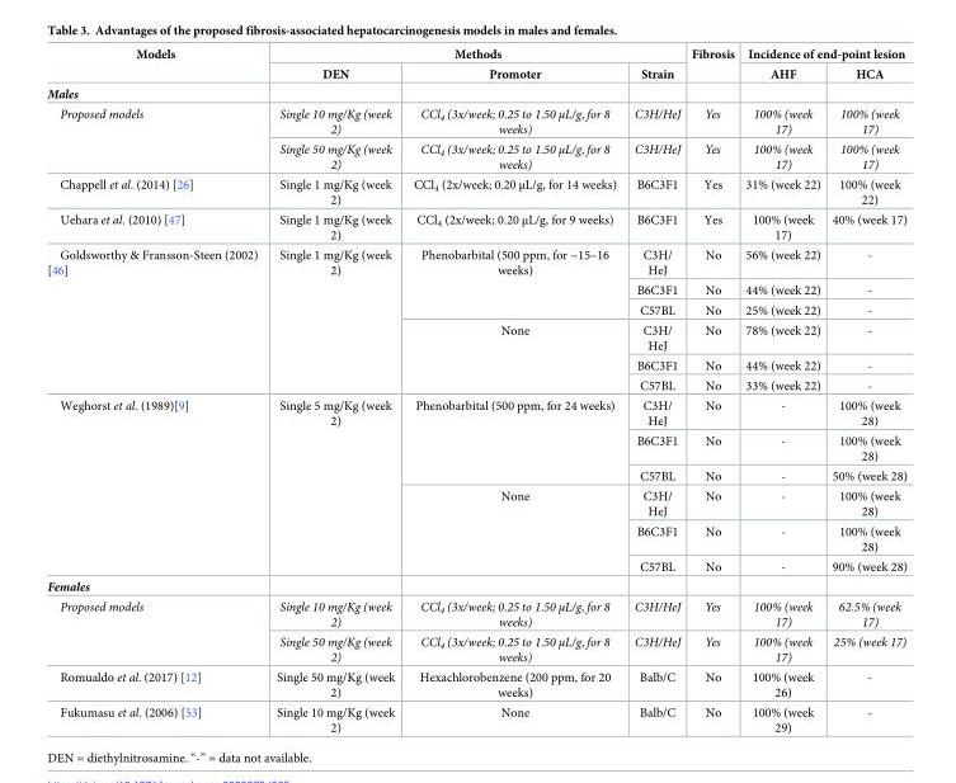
<table><thead><tr><td rowspan="2">Models</td><td colspan="3">Methods</td><td rowspan="2">Fibrosis</td><td colspan="2">Incidence of end-point lesion</td></tr><tr><td>DEN</td><td>Promoter</td><td>Strain</td><td>AHF</td><td>HCA</td></tr></thead><tbody><tr><td colspan="7">Males</td></tr><tr><td rowspan="2">Proposed models</td><td>Single 10 mg/Kg (week 2)</td><td>CCl<sub>4</sub> (3x/week; 0.25 to 1.50 μL/g, for 8 weeks)</td><td>C3H/HeJ</td><td>Yes</td><td>100% (week 17)</td><td>100% (week 17)</td></tr><tr><td>Single 50 mg/Kg (week 2)</td><td>CCl<sub>4</sub> (3x/week; 0.25 to 1.50 μL/g, for 8 weeks)</td><td>C3H/HeJ</td><td>Yes</td><td>100% (week 17)</td><td>100% (week 17)</td></tr><tr><td>Chappell et al. (2014) [26]</td><td>Single 1 mg/Kg (week 2)</td><td>CCl<sub>4</sub> (2x/week; 0.20 μL/g, for 14 weeks)</td><td>B6C3F1</td><td>Yes</td><td>31% (week 22)</td><td>100% (week 22)</td></tr><tr><td>Uehara et al. (2010) [47]</td><td>Single 1 mg/Kg (week 2)</td><td>CCl<sub>4</sub> (2x/week; 0.20 μL/g, for 9 weeks)</td><td>B6C3F1</td><td>Yes</td><td>100% (week 17)</td><td>40% (week 17)</td></tr><tr><td rowspan="6">Goldsworthy &amp; Fransson-Steen (2002) [46]</td><td rowspan="6">Single 1 mg/Kg (week 2)</td><td rowspan="3">Phenobarbital (500 ppm, for ~15–16 weeks)</td><td>C3H/ HeJ</td><td>No</td><td>56% (week 22)</td><td>-</td></tr><tr><td>B6C3F1</td><td>No</td><td>44% (week 22)</td><td>-</td></tr><tr><td>C57BL</td><td>No</td><td>25% (week 22)</td><td>-</td></tr><tr><td rowspan="3">None</td><td>C3H/ HeJ</td><td>No</td><td>78% (week 22)</td><td>-</td></tr><tr><td>B6C3F1</td><td>No</td><td>44% (week 22)</td><td>-</td></tr><tr><td>C57BL</td><td>No</td><td>33% (week 22)</td><td>-</td></tr><tr><td rowspan="6">Weghorst et al. (1989)[9]</td><td rowspan="6">Single 5 mg/Kg (week 2)</td><td rowspan="3">Phenobarbital (500 ppm, for 24 weeks)</td><td>C3H/ HeJ</td><td>No</td><td>-</td><td>100% (week 28)</td></tr><tr><td>B6C3F1</td><td>No</td><td>-</td><td>100% (week 28)</td></tr><tr><td>C57BL</td><td>No</td><td>-</td><td>50% (week 28)</td></tr><tr><td rowspan="3">None</td><td>C3H/ HeJ</td><td>No</td><td>-</td><td>100% (week 28)</td></tr><tr><td>B6C3F1</td><td>No</td><td>-</td><td>100% (week 28)</td></tr><tr><td>C57BL</td><td>No</td><td>-</td><td>90% (week 28)</td></tr><tr><td colspan="7">Females</td></tr><tr><td rowspan="2">Proposed models</td><td>Single 10 mg/Kg (week 2)</td><td>CCl<sub>4</sub> (3x/week; 0.25 to 1.50 μL/g, for 8 weeks)</td><td>C3H/HeJ</td><td>Yes</td><td>100% (week 17)</td><td>62.5% (week 17)</td></tr><tr><td>Single 50 mg/Kg (week 2)</td><td>CCl<sub>4</sub> (3x/week; 0.25 to 1.50 μL/g, for 8 weeks)</td><td>C3H/HeJ</td><td>Yes</td><td>100% (week 17)</td><td>25% (week 17)</td></tr><tr><td>Romualdo et al. (2017) [12]</td><td>Single 50 mg/Kg (week 2)</td><td>Hexachlorobenzene (200 ppm, for 20 weeks)</td><td>Balb/C</td><td>No</td><td>100% (week 26)</td><td>-</td></tr><tr><td>Fukumasu et al. (2006) [53]</td><td>Single 10 mg/Kg (week 2)</td><td>None</td><td>Balb/C</td><td>No</td><td>100% (week 29)</td><td>-</td></tr></tbody></table>